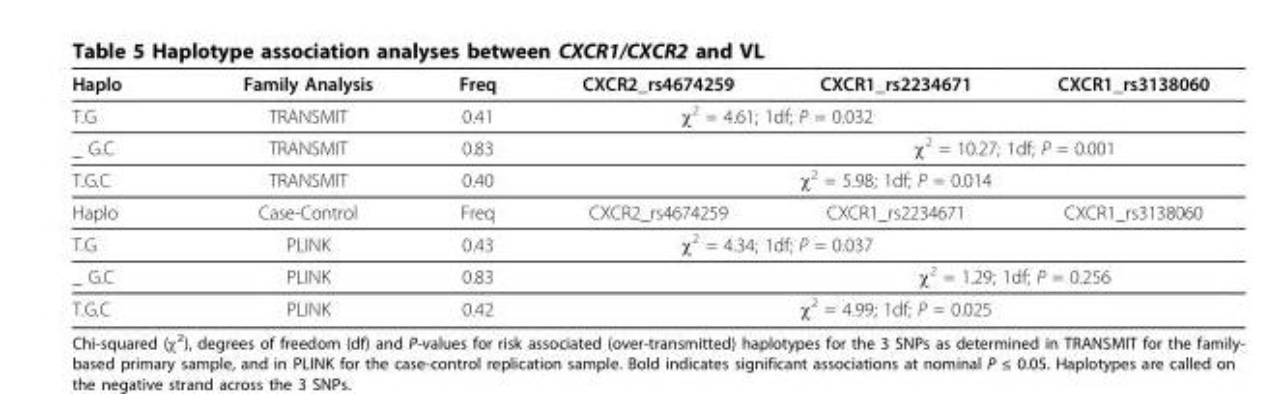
<table><thead><tr><td>Haplo</td><td>Family Analysis</td><td>Freq</td><td>CXCR2_rs4674259</td><td>CXCR1_rs2234671</td><td>CXCR1_rs3138060</td></tr></thead><tbody><tr><td>T.G</td><td>TRANSMIT</td><td>0.41</td><td colspan="2">χ<sup>2</sup> = 4.61; 1df; P = 0.032</td><td></td></tr><tr><td>_ G.C</td><td>TRANSMIT</td><td>0.83</td><td></td><td colspan="2">χ<sup>2</sup> = 10.27; 1df; P = 0.001</td></tr><tr><td>T.G.C</td><td>TRANSMIT</td><td>0.40</td><td colspan="3">χ<sup>2</sup> = 5.98; 1df; P = 0.014</td></tr><tr><td>Haplo</td><td>Case-Control</td><td>Freq</td><td>CXCR2_rs4674259</td><td>CXCR1_rs2234671</td><td>CXCR1_rs3138060</td></tr><tr><td>T.G</td><td>PLINK</td><td>0.43</td><td colspan="2">χ<sup>2</sup> = 4.34; 1df; P = 0.037</td><td></td></tr><tr><td>_ G.C</td><td>PLINK</td><td>0.83</td><td></td><td colspan="2">χ<sup>2</sup> = 1.29; 1df; P = 0.256</td></tr><tr><td>T.G.C</td><td>PLINK</td><td>0.42</td><td colspan="3">χ<sup>2</sup> = 4.99; 1df; P = 0.025</td></tr></tbody></table>